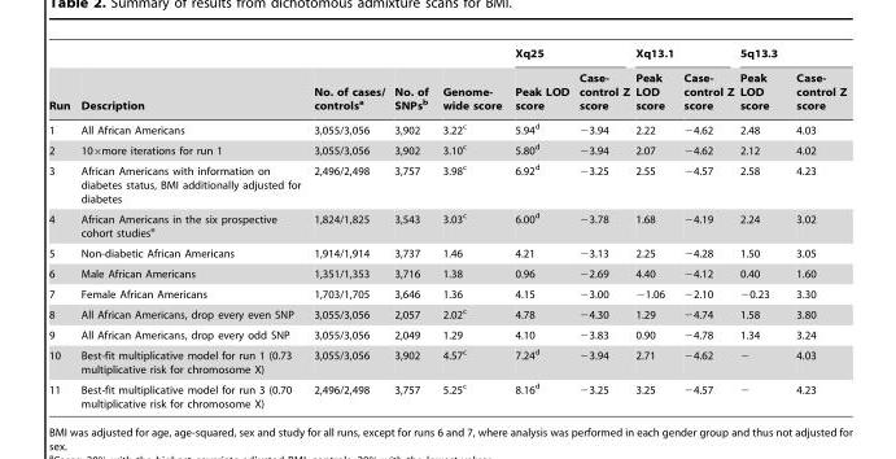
<table><thead><tr><td rowspan="2">Run</td><td rowspan="2">Description</td><td rowspan="2">No. of cases/ controls<sup>a</sup></td><td rowspan="2">No. of SNPs<sup>b</sup></td><td rowspan="2">Genome- wide score</td><td colspan="2">Xq25</td><td colspan="2">Xq13.1</td><td colspan="2">5q13.3</td></tr><tr><td>Peak LOD score</td><td>Case- control Z score</td><td>Peak LOD score</td><td>Case- control Z score</td><td>Peak LOD score</td><td>Case- control Z score</td></tr></thead><tbody><tr><td>1</td><td>All African Americans</td><td>3,055/3,056</td><td>3,902</td><td>3.22<sup>c</sup></td><td>5.94<sup>d</sup></td><td>−3.94</td><td>2.22</td><td>−4.62</td><td>2.48</td><td>4.03</td></tr><tr><td>2</td><td>10×more iterations for run 1</td><td>3,055/3,056</td><td>3,902</td><td>3.10<sup>c</sup></td><td>5.80<sup>d</sup></td><td>−3.94</td><td>2.07</td><td>−4.62</td><td>2.12</td><td>4.02</td></tr><tr><td>3</td><td>African Americans with information on diabetes status, BMI additionally adjusted for diabetes</td><td>2,496/2,498</td><td>3,757</td><td>3.98<sup>c</sup></td><td>6.92<sup>d</sup></td><td>−3.25</td><td>2.55</td><td>−4.57</td><td>2.58</td><td>4.23</td></tr><tr><td>4</td><td>African Americans in the six prospective cohort studies<sup>e</sup></td><td>1,824/1,825</td><td>3,543</td><td>3.03<sup>c</sup></td><td>6.00<sup>d</sup></td><td>−3.78</td><td>1.68</td><td>−4.19</td><td>2.24</td><td>3.02</td></tr><tr><td>5</td><td>Non-diabetic African Americans</td><td>1,914/1,914</td><td>3,737</td><td>1.46</td><td>4.21</td><td>−3.13</td><td>2.25</td><td>−4.28</td><td>1.50</td><td>3.05</td></tr><tr><td>6</td><td>Male African Americans</td><td>1,351/1,353</td><td>3,716</td><td>1.38</td><td>0.96</td><td>−2.69</td><td>4.40</td><td>−4.12</td><td>0.40</td><td>1.60</td></tr><tr><td>7</td><td>Female African Americans</td><td>1,703/1,705</td><td>3,646</td><td>1.36</td><td>4.15</td><td>−3.00</td><td>−1.06</td><td>−2.10</td><td>−0.23</td><td>3.30</td></tr><tr><td>8</td><td>All African Americans, drop every even SNP</td><td>3,055/3,056</td><td>2,057</td><td>2.02<sup>c</sup></td><td>4.78</td><td>−4.30</td><td>1.29</td><td>−4.74</td><td>1.58</td><td>3.80</td></tr><tr><td>9</td><td>All African Americans, drop every odd SNP</td><td>3,055/3,056</td><td>2,049</td><td>1.29</td><td>4.10</td><td>−3.83</td><td>0.90</td><td>−4.78</td><td>1.34</td><td>3.24</td></tr><tr><td>10</td><td>Best-fit multiplicative model for run 1 (0.73 multiplicative risk for chromosome X)</td><td>3,055/3,056</td><td>3,902</td><td>4.57<sup>c</sup></td><td>7.24<sup>d</sup></td><td>−3.94</td><td>2.71</td><td>−4.62</td><td>−</td><td>4.03</td></tr><tr><td>11</td><td>Best-fit multiplicative model for run 3 (0.70 multiplicative risk for chromosome X)</td><td>2,496/2,498</td><td>3,757</td><td>5.25<sup>c</sup></td><td>8.16<sup>d</sup></td><td>−3.25</td><td>3.25</td><td>−4.57</td><td>−</td><td>4.23</td></tr></tbody></table>